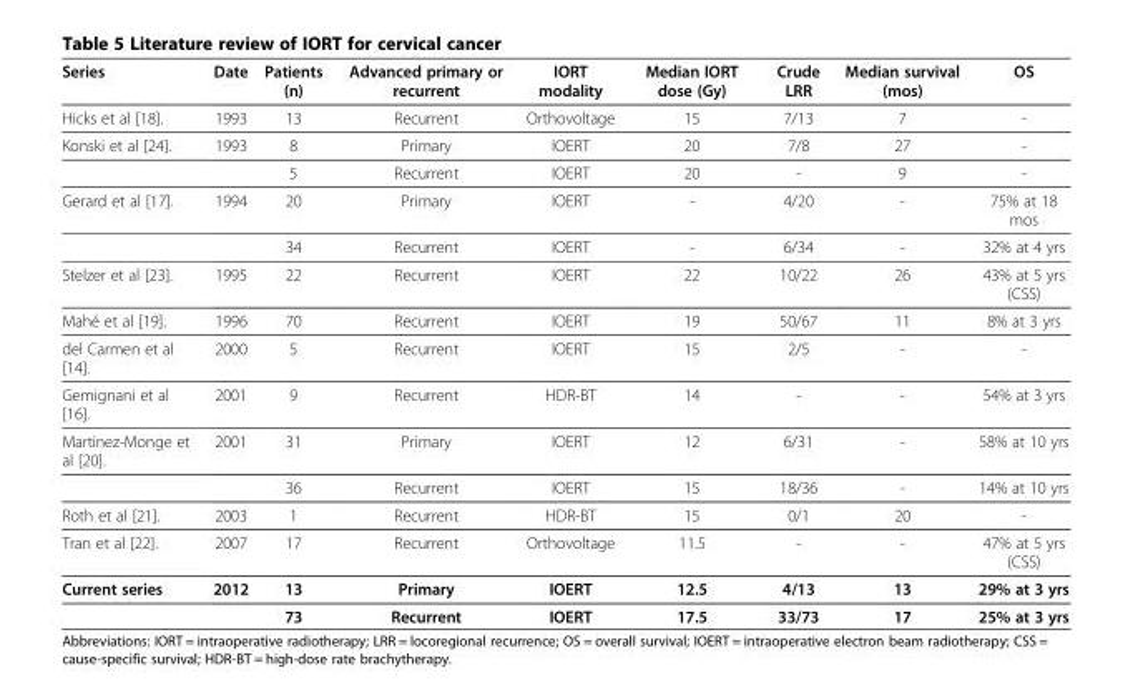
<table><thead><tr><td>Series</td><td>Date</td><td>Patients (n)</td><td>Advanced primary or recurrent</td><td>IORT modality</td><td>Median IORT dose (Gy)</td><td>Crude LRR</td><td>Median survival (mos)</td><td>OS</td></tr></thead><tbody><tr><td>Hicks et al [18].</td><td>1993</td><td>13</td><td>Recurrent</td><td>Orthovoltage</td><td>15</td><td>7/13</td><td>7</td><td>-</td></tr><tr><td rowspan="2">Konski et al [24].</td><td>1993</td><td>8</td><td>Primary</td><td>IOERT</td><td>20</td><td>7/8</td><td>27</td><td>-</td></tr><tr><td></td><td>5</td><td>Recurrent</td><td>IOERT</td><td>20</td><td>-</td><td>9</td><td>-</td></tr><tr><td rowspan="2">Gerard et al [17].</td><td>1994</td><td>20</td><td>Primary</td><td>IOERT</td><td>-</td><td>4/20</td><td>-</td><td>75% at 18 mos</td></tr><tr><td></td><td>34</td><td>Recurrent</td><td>IOERT</td><td>-</td><td>6/34</td><td>-</td><td>32% at 4 yrs</td></tr><tr><td>Stelzer et al [23].</td><td>1995</td><td>22</td><td>Recurrent</td><td>IOERT</td><td>22</td><td>10/22</td><td>26</td><td>43% at 5 yrs (CSS)</td></tr><tr><td>Mahé et al [19].</td><td>1996</td><td>70</td><td>Recurrent</td><td>IOERT</td><td>19</td><td>50/67</td><td>11</td><td>8% at 3 yrs</td></tr><tr><td>del Carmen et al [14].</td><td>2000</td><td>5</td><td>Recurrent</td><td>IOERT</td><td>15</td><td>2/5</td><td>-</td><td>-</td></tr><tr><td>Gemignani et al [16].</td><td>2001</td><td>9</td><td>Recurrent</td><td>HDR-BT</td><td>14</td><td>-</td><td>-</td><td>54% at 3 yrs</td></tr><tr><td rowspan="2">Martinez-Monge et al [20].</td><td>2001</td><td>31</td><td>Primary</td><td>IOERT</td><td>12</td><td>6/31</td><td>-</td><td>58% at 10 yrs</td></tr><tr><td></td><td>36</td><td>Recurrent</td><td>IOERT</td><td>15</td><td>18/36</td><td>-</td><td>14% at 10 yrs</td></tr><tr><td>Roth et al [21].</td><td>2003</td><td>1</td><td>Recurrent</td><td>HDR-BT</td><td>15</td><td>0/1</td><td>20</td><td>-</td></tr><tr><td>Tran et al [22].</td><td>2007</td><td>17</td><td>Recurrent</td><td>Orthovoltage</td><td>11.5</td><td>-</td><td>-</td><td>47% at 5 yrs (CSS)</td></tr><tr><td rowspan="2">Current series</td><td>2012</td><td>13</td><td>Primary</td><td>IOERT</td><td>12.5</td><td>4/13</td><td>13</td><td>29% at 3 yrs</td></tr><tr><td></td><td>73</td><td>Recurrent</td><td>IOERT</td><td>17.5</td><td>33/73</td><td>17</td><td>25% at 3 yrs</td></tr></tbody></table>